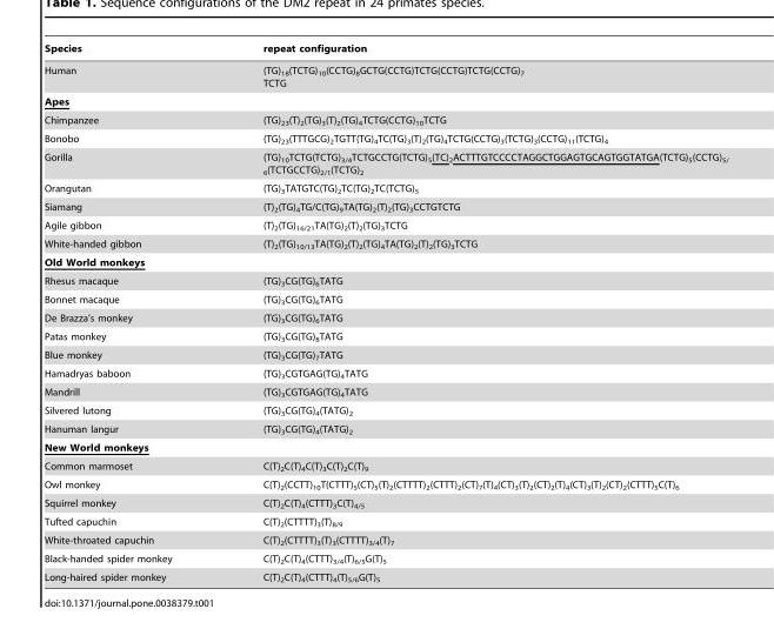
<table><thead><tr><td>Species</td><td>repeat configuration</td></tr></thead><tbody><tr><td>Human</td><td>(TG)<sub>18</sub>(TCTG)<sub>10</sub>(CCTG)<sub>8</sub>GCTG(CCTG)TCTG(CCTG)TCTG(CCTG)<sub>7</sub> TCTG</td></tr><tr><td colspan="2">Apes</td></tr><tr><td>Chimpanzee</td><td>(TG)<sub>23</sub>(T)<sub>2</sub>(TG)<sub>3</sub>(T)<sub>2</sub>(TG)<sub>4</sub>TCTG(CCTG)<sub>10</sub>TCTG</td></tr><tr><td>Bonobo</td><td>(TG)<sub>23</sub>(TTTGCG)<sub>2</sub>TGTT(TG)<sub>4</sub>TC(TG)<sub>3</sub>(T)<sub>2</sub>(TG)<sub>4</sub>TCTG(CCTG)<sub>3</sub>(TCTG)<sub>3</sub>(CCTG)<sub>11</sub>(TCTG)<sub>4</sub></td></tr><tr><td>Gorilla</td><td>(TG)<sub>10</sub>TCTG(TCTG)<sub>3/4</sub>TCTGCCTG(TCTG)<sub>5</sub>(TC)<sub>2</sub>ACTTTGTCCCCTAGGCTGGAGTGCAGTGGTATGA(TCTG)<sub>5</sub>(CCTG)<sub>5/ 6</sub>(TCTGCCTG)<sub>2/1</sub>(TCTG)<sub>2</sub></td></tr><tr><td>Orangutan</td><td>(TG)<sub>3</sub>TATGTC(TG)<sub>2</sub>TC(TG)<sub>2</sub>TC(TCTG)<sub>5</sub></td></tr><tr><td>Siamang</td><td>(T)<sub>2</sub>(TG)<sub>4</sub>TG/C(TG)<sub>9</sub>TA(TG)<sub>2</sub>(T)<sub>2</sub>(TG)<sub>3</sub>CCTGTCTG</td></tr><tr><td>Agile gibbon</td><td>(T)<sub>2</sub>(TG)<sub>16/21</sub>TA(TG)<sub>2</sub>(T)<sub>2</sub>(TG)<sub>3</sub>TCTG</td></tr><tr><td>White-handed gibbon</td><td>(T)<sub>2</sub>(TG)<sub>10/13</sub>TA(TG)<sub>2</sub>(T)<sub>2</sub>(TG)<sub>4</sub>TA(TG)<sub>2</sub>(T)<sub>2</sub>(TG)<sub>3</sub>TCTG</td></tr><tr><td colspan="2">Old World monkeys</td></tr><tr><td>Rhesus macaque</td><td>(TG)<sub>3</sub>CG(TG)<sub>6</sub>TATG</td></tr><tr><td>Bonnet macaque</td><td>(TG)<sub>3</sub>CG(TG)<sub>6</sub>TATG</td></tr><tr><td>De Brazza’s monkey</td><td>(TG)<sub>3</sub>CG(TG)<sub>6</sub>TATG</td></tr><tr><td>Patas monkey</td><td>(TG)<sub>3</sub>CG(TG)<sub>8</sub>TATG</td></tr><tr><td>Blue monkey</td><td>(TG)<sub>3</sub>CG(TG)<sub>7</sub>TATG</td></tr><tr><td>Hamadryas baboon</td><td>(TG)<sub>3</sub>CGTGAG(TG)<sub>4</sub>TATG</td></tr><tr><td>Mandrill</td><td>(TG)<sub>3</sub>CGTGAG(TG)<sub>4</sub>TATG</td></tr><tr><td>Silvered lutong</td><td>(TG)<sub>3</sub>CG(TG)<sub>4</sub>(TATG)<sub>2</sub></td></tr><tr><td>Hanuman langur</td><td>(TG)<sub>3</sub>CG(TG)<sub>4</sub>(TATG)<sub>2</sub></td></tr><tr><td colspan="2">New World monkeys</td></tr><tr><td>Common marmoset</td><td>C(T)<sub>2</sub>C(T)<sub>4</sub>C(T)<sub>3</sub>C(T)<sub>2</sub>C(T)<sub>9</sub></td></tr><tr><td>Owl monkey</td><td>C(T)<sub>2</sub>(CCTT)<sub>10</sub>T(CTTT)<sub>5</sub>(CT)<sub>5</sub>(T)<sub>2</sub>(CTTTT)<sub>2</sub>(CTTT)<sub>2</sub>(CT)<sub>7</sub>(T)<sub>4</sub>(CT)<sub>3</sub>(T)<sub>2</sub>(CT)<sub>2</sub>(T)<sub>4</sub>(CT)<sub>3</sub>(T)<sub>2</sub>(CT)<sub>2</sub>(CTTT)<sub>5</sub>C(T)<sub>6</sub></td></tr><tr><td>Squirrel monkey</td><td>C(T)<sub>2</sub>C(T)<sub>4</sub>(CTTT)<sub>3</sub>C(T)<sub>4/5</sub></td></tr><tr><td>Tufted capuchin</td><td>C(T)<sub>2</sub>(CTTTT)<sub>3</sub>(T)<sub>8/9</sub></td></tr><tr><td>White-throated capuchin</td><td>C(T)<sub>2</sub>(CTTTT)<sub>3</sub>(T)<sub>3</sub>(CTTTT)<sub>3/4</sub>(T)<sub>7</sub></td></tr><tr><td>Black-handed spider monkey</td><td>C(T)<sub>2</sub>C(T)<sub>4</sub>(CTTT)<sub>3/4</sub>(T)<sub>6/5</sub>G(T)<sub>5</sub></td></tr><tr><td>Long-haired spider monkey</td><td>C(T)<sub>2</sub>C(T)<sub>4</sub>(CTTT)<sub>4</sub>(T)<sub>5/6</sub>G(T)<sub>5</sub></td></tr></tbody></table>